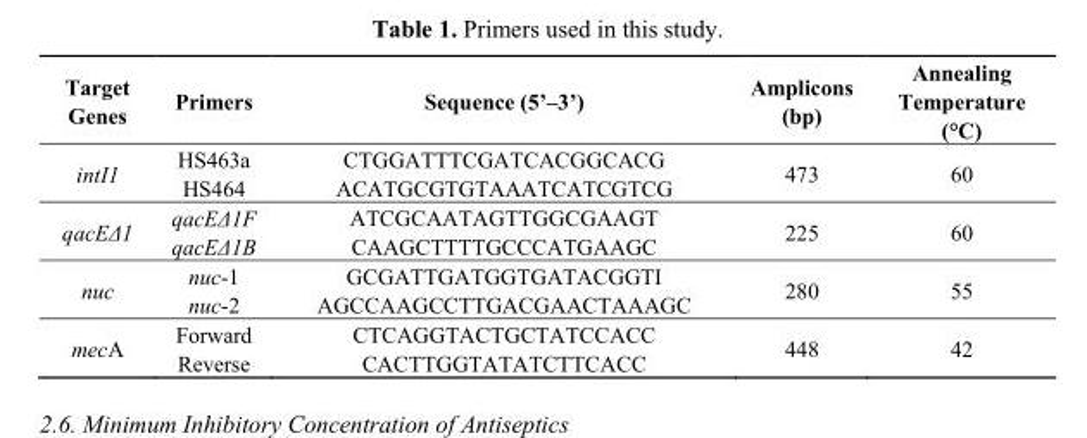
<table><thead><tr><td>Target Genes</td><td>Primers</td><td>Sequence (5’–3’)</td><td>Amplicons (bp)</td><td>Annealing Temperature (°C)</td></tr></thead><tbody><tr><td>intI1</td><td>HS463a HS464</td><td>CTGGATTTCGATCACGGCACG ACATGCGTGTAAATCATCGTCG</td><td>473</td><td>60</td></tr><tr><td>qacEΔ1</td><td>qacEΔ1F qacEΔ1B</td><td>ATCGCAATAGTTGGCGAAGT CAAGCTTTTGCCCATGAAGC</td><td>225</td><td>60</td></tr><tr><td>nuc</td><td>nuc-1 nuc-2</td><td>GCGATTGATGGTGATACGGTI AGCCAAGCCTTGACGAACTAAAGC</td><td>280</td><td>55</td></tr><tr><td>mecA</td><td>Forward Reverse</td><td>CTCAGGTACTGCTATCCACC CACTTGGTATATCTTCACC</td><td>448</td><td>42</td></tr></tbody></table>